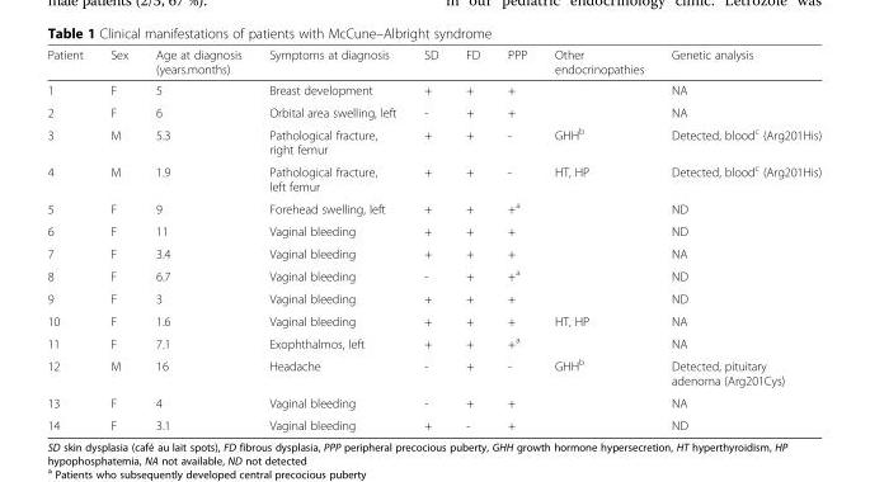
<table><thead><tr><td>Patient</td><td>Sex</td><td>Age at diagnosis (years.months)</td><td>Symptoms at diagnosis</td><td>SD</td><td>FD</td><td>PPP</td><td>Other endocrinopathies</td><td>Genetic analysis</td></tr></thead><tbody><tr><td>1</td><td>F</td><td>5</td><td>Breast development</td><td>+</td><td>+</td><td>+</td><td></td><td>NA</td></tr><tr><td>2</td><td>F</td><td>6</td><td>Orbital area swelling, left</td><td>-</td><td>+</td><td>+</td><td></td><td>NA</td></tr><tr><td>3</td><td>M</td><td>5.3</td><td>Pathological fracture, right femur</td><td>+</td><td>+</td><td>-</td><td>GHH<sup>b</sup></td><td>Detected, blood<sup>c</sup> (Arg201His)</td></tr><tr><td>4</td><td>M</td><td>1.9</td><td>Pathological fracture, left femur</td><td>+</td><td>+</td><td>-</td><td>HT, HP</td><td>Detected, blood<sup>c</sup> (Arg201His)</td></tr><tr><td>5</td><td>F</td><td>9</td><td>Forehead swelling, left</td><td>+</td><td>+</td><td>+<sup>a</sup></td><td></td><td>ND</td></tr><tr><td>6</td><td>F</td><td>11</td><td>Vaginal bleeding</td><td>+</td><td>+</td><td>+</td><td></td><td>ND</td></tr><tr><td>7</td><td>F</td><td>3.4</td><td>Vaginal bleeding</td><td>+</td><td>+</td><td>+</td><td></td><td>NA</td></tr><tr><td>8</td><td>F</td><td>6.7</td><td>Vaginal bleeding</td><td>-</td><td>+</td><td>+<sup>a</sup></td><td></td><td>ND</td></tr><tr><td>9</td><td>F</td><td>3</td><td>Vaginal bleeding</td><td>+</td><td>+</td><td>+</td><td></td><td>ND</td></tr><tr><td>10</td><td>F</td><td>1.6</td><td>Vaginal bleeding</td><td>+</td><td>+</td><td>+</td><td>HT, HP</td><td>NA</td></tr><tr><td>11</td><td>F</td><td>7.1</td><td>Exophthalmos, left</td><td>+</td><td>+</td><td>+<sup>a</sup></td><td></td><td>NA</td></tr><tr><td>12</td><td>M</td><td>16</td><td>Headache</td><td>-</td><td>+</td><td>-</td><td>GHH<sup>b</sup></td><td>Detected, pituitary adenoma (Arg201Cys)</td></tr><tr><td>13</td><td>F</td><td>4</td><td>Vaginal bleeding</td><td>-</td><td>+</td><td>+</td><td></td><td>NA</td></tr><tr><td>14</td><td>F</td><td>3.1</td><td>Vaginal bleeding</td><td>+</td><td>-</td><td>+</td><td></td><td>ND</td></tr></tbody></table>